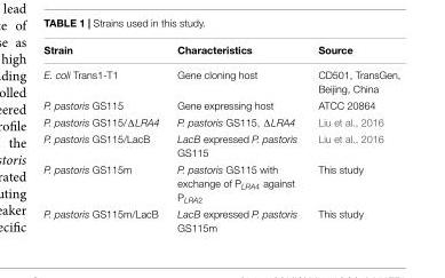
<table><thead><tr><td>Strain</td><td>Characteristics</td><td>Source</td></tr></thead><tbody><tr><td>E. coli Trans1-T1</td><td>Gene cloning host</td><td>CD501, TransGen, Beijing, China</td></tr><tr><td>P. pastoris GS115</td><td>Gene expressing host</td><td>ATCC 20864</td></tr><tr><td>P. pastoris GS115/ΔLRA4</td><td>P. pastoris GS115, ΔLRA4</td><td>Liu et al., 2016</td></tr><tr><td>P. pastoris GS115/LacB</td><td>LacB expressed P. pastoris GS115</td><td>Liu et al., 2016</td></tr><tr><td>P. pastoris GS115m</td><td>P. pastoris GS115 with exchange of P<sub>LRA4</sub> against P<sub>LRA2</sub></td><td>This study</td></tr><tr><td>P. pastoris GS115m/LacB</td><td>LacB expressed P. pastoris GS115m</td><td>This study</td></tr></tbody></table>